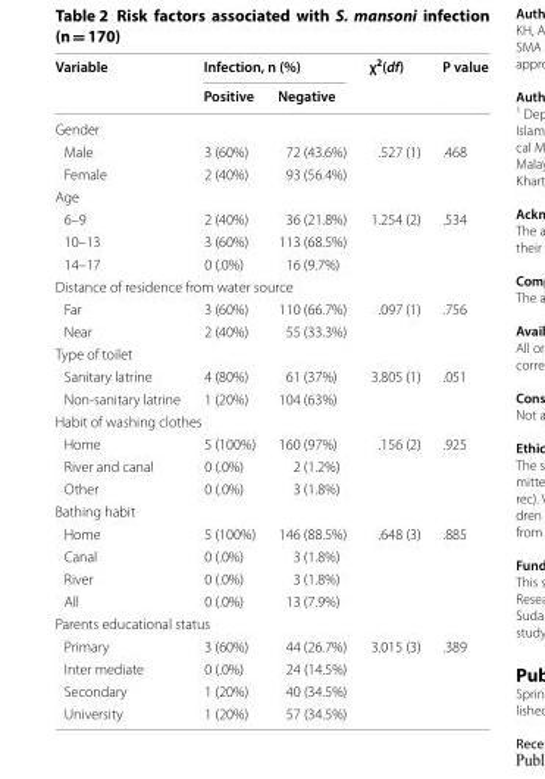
<table><thead><tr><td rowspan="2">Variable</td><td colspan="2">Infection, n (%)</td><td rowspan="2">χ<sup>2</sup>(df)</td><td rowspan="2">P value</td></tr><tr><td>Positive</td><td>Negative</td></tr></thead><tbody><tr><td colspan="5">Gender</td></tr><tr><td>Male</td><td>3 (60%)</td><td>72 (43.6%)</td><td rowspan="2">.527 (1)</td><td rowspan="2">.468</td></tr><tr><td>Female</td><td>2 (40%)</td><td>93 (56.4%)</td></tr><tr><td colspan="5">Age</td></tr><tr><td>6–9</td><td>2 (40%)</td><td>36 (21.8%)</td><td rowspan="3">1.254 (2)</td><td rowspan="3">.534</td></tr><tr><td>10–13</td><td>3 (60%)</td><td>113 (68.5%)</td></tr><tr><td>14–17</td><td>0 (.0%)</td><td>16 (9.7%)</td></tr><tr><td colspan="5">Distance of residence from water source</td></tr><tr><td>Far</td><td>3 (60%)</td><td>110 (66.7%)</td><td rowspan="2">.097 (1)</td><td rowspan="2">.756</td></tr><tr><td>Near</td><td>2 (40%)</td><td>55 (33.3%)</td></tr><tr><td colspan="5">Type of toilet</td></tr><tr><td>Sanitary latrine</td><td>4 (80%)</td><td>61 (37%)</td><td rowspan="2">3.805 (1)</td><td rowspan="2">.051</td></tr><tr><td>Non-sanitary latrine</td><td>1 (20%)</td><td>104 (63%)</td></tr><tr><td colspan="5">Habit of washing clothes</td></tr><tr><td>Home</td><td>5 (100%)</td><td>160 (97%)</td><td rowspan="3">.156 (2)</td><td rowspan="3">.925</td></tr><tr><td>River and canal</td><td>0 (.0%)</td><td>2 (1.2%)</td></tr><tr><td>Other</td><td>0 (.0%)</td><td>3 (1.8%)</td></tr><tr><td colspan="5">Bathing habit</td></tr><tr><td>Home</td><td>5 (100%)</td><td>146 (88.5%)</td><td rowspan="4">.648 (3)</td><td rowspan="4">.885</td></tr><tr><td>Canal</td><td>0 (.0%)</td><td>3 (1.8%)</td></tr><tr><td>River</td><td>0 (.0%)</td><td>3 (1.8%)</td></tr><tr><td>All</td><td>0 (.0%)</td><td>13 (7.9%)</td></tr><tr><td colspan="5">Parents educational status</td></tr><tr><td>Primary</td><td>3 (60%)</td><td>44 (26.7%)</td><td rowspan="4">3.015 (3)</td><td rowspan="4">.389</td></tr><tr><td>Inter mediate</td><td>0 (.0%)</td><td>24 (14.5%)</td></tr><tr><td>Secondary</td><td>1 (20%)</td><td>40 (34.5%)</td></tr><tr><td>University</td><td>1 (20%)</td><td>57 (34.5%)</td></tr></tbody></table>